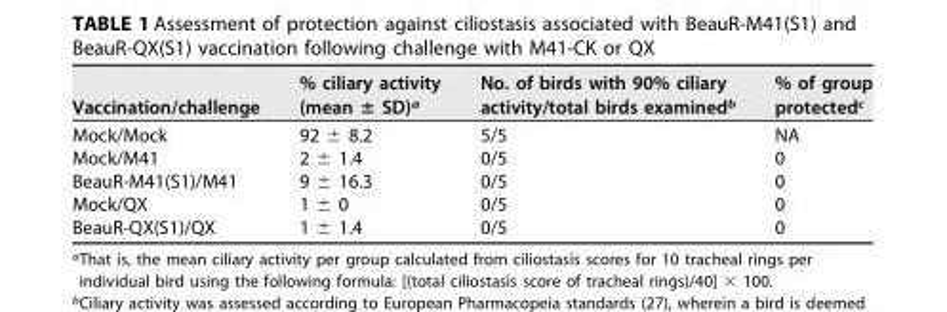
<table><thead><tr><td>Vaccination/challenge</td><td>% ciliary activity (mean ± SD)<sup>a</sup></td><td>No. of birds with 90% ciliary activity/total birds examined<sup>b</sup></td><td>% of group protected<sup>c</sup></td></tr></thead><tbody><tr><td>Mock/Mock</td><td>92 ± 8.2</td><td>5/5</td><td>NA</td></tr><tr><td>Mock/M41</td><td>2 ± 1.4</td><td>0/5</td><td>0</td></tr><tr><td>BeauR-M41(S1)/M41</td><td>9 ± 16.3</td><td>0/5</td><td>0</td></tr><tr><td>Mock/QX</td><td>1 ± 0</td><td>0/5</td><td>0</td></tr><tr><td>BeauR-QX(S1)/QX</td><td>1 ± 1.4</td><td>0/5</td><td>0</td></tr></tbody></table>